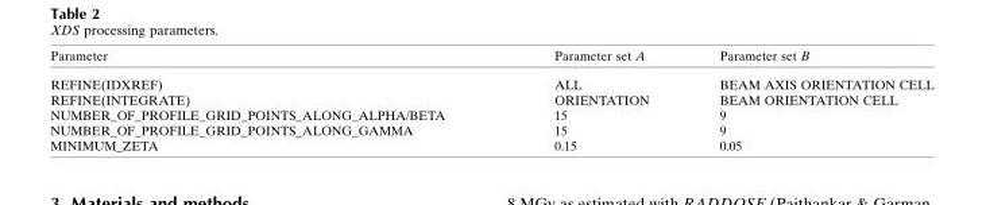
<table><thead><tr><td>Parameter</td><td>Parameter set A</td><td>Parameter set B</td></tr></thead><tbody><tr><td>REFINE(IDXREF)</td><td>ALL</td><td>BEAM AXIS ORIENTATION CELL</td></tr><tr><td>REFINE(INTEGRATE)</td><td>ORIENTATION</td><td>BEAM ORIENTATION CELL</td></tr><tr><td>NUMBER_OF_PROFILE_GRID_POINTS_ALONG_ALPHA/BETA</td><td>15</td><td>9</td></tr><tr><td>NUMBER_OF_PROFILE_GRID_POINTS_ALONG_GAMMA</td><td>15</td><td>9</td></tr><tr><td>MINIMUM_ZETA</td><td>0.15</td><td>0.05</td></tr></tbody></table>